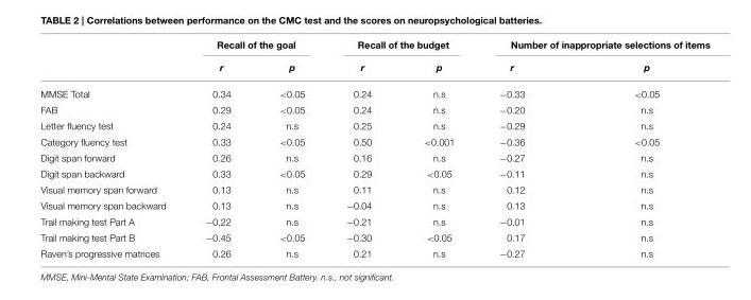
<table><thead><tr><td rowspan="2"></td><td colspan="2">Recall of the goal</td><td colspan="2">Recall of the budget</td><td colspan="2">Number of inappropriate selections of items</td></tr><tr><td>r</td><td>p</td><td>r</td><td>p</td><td>r</td><td>p</td></tr></thead><tbody><tr><td>MMSE Total</td><td>0.34</td><td>&lt;0.05</td><td>0.24</td><td>n.s</td><td>−0.33</td><td>&lt;0.05</td></tr><tr><td>FAB</td><td>0.29</td><td>&lt;0.05</td><td>0.24</td><td>n.s</td><td>−0.20</td><td>n.s</td></tr><tr><td>Letter fluency test</td><td>0.24</td><td>n.s</td><td>0.25</td><td>n.s</td><td>−0.29</td><td>n.s</td></tr><tr><td>Category fluency test</td><td>0.33</td><td>&lt;0.05</td><td>0.50</td><td>&lt;0.001</td><td>−0.36</td><td>&lt;0.05</td></tr><tr><td>Digit span forward</td><td>0.26</td><td>n.s</td><td>0.16</td><td>n.s</td><td>−0.27</td><td>n.s</td></tr><tr><td>Digit span backward</td><td>0.33</td><td>&lt;0.05</td><td>0.29</td><td>&lt;0.05</td><td>−0.11</td><td>n.s</td></tr><tr><td>Visual memory span forward</td><td>0.13</td><td>n.s</td><td>0.11</td><td>n.s</td><td>0.12</td><td>n.s</td></tr><tr><td>Visual memory span backward</td><td>0.13</td><td>n.s</td><td>−0.04</td><td>n.s</td><td>0.13</td><td>n.s</td></tr><tr><td>Trail making test Part A</td><td>−0.22</td><td>n.s</td><td>−0.21</td><td>n.s</td><td>−0.01</td><td>n.s</td></tr><tr><td>Trail making test Part B</td><td>−0.45</td><td>&lt;0.05</td><td>−0.30</td><td>&lt;0.05</td><td>0.17</td><td>n.s</td></tr><tr><td>Raven’s progressive matrices</td><td>0.26</td><td>n.s</td><td>0.21</td><td>n.s</td><td>−0.27</td><td>n.s</td></tr></tbody></table>